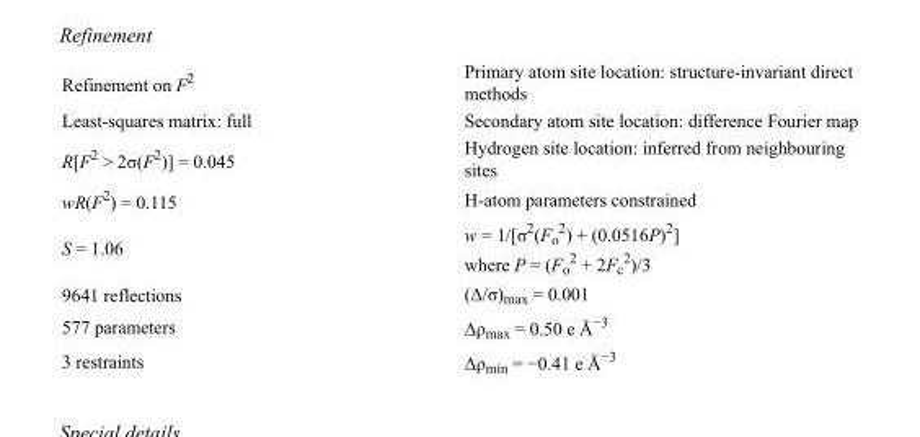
<table><tbody><tr><td>Refinement on F<sup>2</sup></td><td>Primary atom site location: structure-invariant direct methods</td></tr><tr><td>Least-squares matrix: full</td><td>Secondary atom site location: difference Fourier map</td></tr><tr><td>R[F<sup>2</sup> &gt; 2σ(F<sup>2</sup>)] = 0.045</td><td>Hydrogen site location: inferred from neighbouring sites</td></tr><tr><td>wR(F<sup>2</sup>) = 0.115</td><td>H-atom parameters constrained</td></tr><tr><td>S = 1.06</td><td>w = 1/[σ<sup>2</sup>(F<sub>o</sub> <sup>2</sup>) + (0.0516P)<sup>2</sup>] where P = (F<sub>o</sub> <sup>2</sup> + 2F<sub>c</sub> <sup>2</sup>)/3</td></tr><tr><td>9641 reflections</td><td>(Δ/σ)<sub>max</sub> = 0.001</td></tr><tr><td>577 parameters</td><td>Δρ<sub>max</sub> = 0.50 e Å<sup>−3</sup></td></tr><tr><td>3 restraints</td><td>Δρ<sub>min</sub> = −0.41 e Å<sup>−3</sup></td></tr></tbody></table>